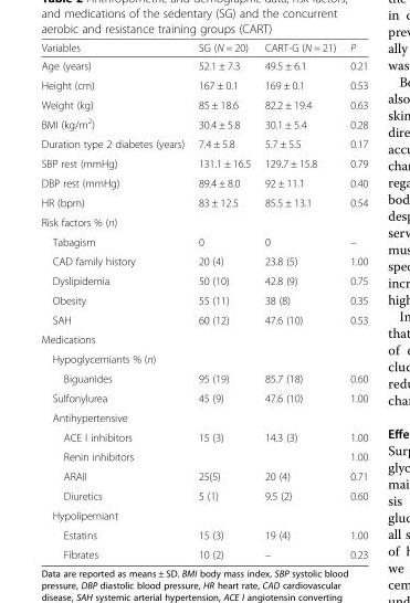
<table><thead><tr><td>Variables</td><td>SG (N = 20)</td><td>CART-G (N = 21)</td><td>P</td></tr></thead><tbody><tr><td>Age (years)</td><td>52.1 ± 7.3</td><td>49.5 ± 6.1</td><td>0.21</td></tr><tr><td>Height (cm)</td><td>167 ± 0.1</td><td>169 ± 0.1</td><td>0.53</td></tr><tr><td>Weight (kg)</td><td>85 ± 18.6</td><td>82.2 ± 19.4</td><td>0.63</td></tr><tr><td>BMI (kg/m2)</td><td>30.4 ± 5.8</td><td>30.1 ± 5.4</td><td>0.28</td></tr><tr><td>Duration type 2 diabetes (years)</td><td>7.4 ± 5.8</td><td>5.7 ± 5.5</td><td>0.17</td></tr><tr><td>SBP rest (mmHg)</td><td>131.1 ± 16.5</td><td>129.7 ± 15.8</td><td>0.79</td></tr><tr><td>DBP rest (mmHg)</td><td>89.4 ± 8.0</td><td>92 ± 11.1</td><td>0.40</td></tr><tr><td>HR (bpm)</td><td>83 ± 12.5</td><td>85.5 ± 13.1</td><td>0.54</td></tr><tr><td colspan="4">Risk factors % (n)</td></tr><tr><td>Tabagism</td><td>0</td><td>0</td><td>–</td></tr><tr><td>CAD family history</td><td>20 (4)</td><td>23.8 (5)</td><td>1.00</td></tr><tr><td>Dyslipidemia</td><td>50 (10)</td><td>42.8 (9)</td><td>0.75</td></tr><tr><td>Obesity</td><td>55 (11)</td><td>38 (8)</td><td>0.35</td></tr><tr><td>SAH</td><td>60 (12)</td><td>47.6 (10)</td><td>0.53</td></tr><tr><td colspan="4">Medications</td></tr><tr><td colspan="4">Hypoglycemiants % (n)</td></tr><tr><td>Biguanides</td><td>95 (19)</td><td>85.7 (18)</td><td>0.60</td></tr><tr><td>Sulfonylurea</td><td>45 (9)</td><td>47.6 (10)</td><td>1.00</td></tr><tr><td colspan="4">Antihypertensive</td></tr><tr><td>ACE I inhibitors</td><td>15 (3)</td><td>14.3 (3)</td><td>1.00</td></tr><tr><td>Renin inhibitors</td><td></td><td></td><td>1.00</td></tr><tr><td>ARAII</td><td>25(5)</td><td>20 (4)</td><td>0.71</td></tr><tr><td>Diuretics</td><td>5 (1)</td><td>9.5 (2)</td><td>0.60</td></tr><tr><td colspan="4">Hypolipemiant</td></tr><tr><td>Estatins</td><td>15 (3)</td><td>19 (4)</td><td>1.00</td></tr><tr><td>Fibrates</td><td>10 (2)</td><td>–</td><td>0.23</td></tr></tbody></table>